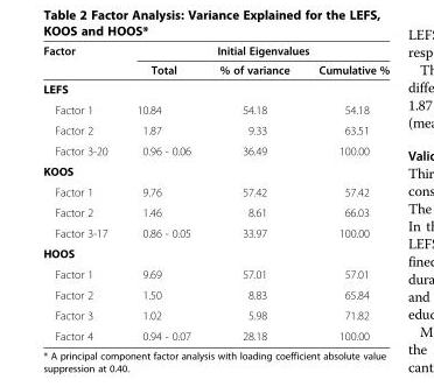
<table><thead><tr><td rowspan="2">Factor</td><td colspan="3">Initial Eigenvalues</td></tr><tr><td>Total</td><td>% of variance</td><td>Cumulative %</td></tr></thead><tbody><tr><td colspan="4">LEFS</td></tr><tr><td>Factor 1</td><td>10.84</td><td>54.18</td><td>54.18</td></tr><tr><td>Factor 2</td><td>1.87</td><td>9.33</td><td>63.51</td></tr><tr><td>Factor 3-20</td><td>0.96 - 0.06</td><td>36.49</td><td>100.00</td></tr><tr><td colspan="4">KOOS</td></tr><tr><td>Factor 1</td><td>9.76</td><td>57.42</td><td>57.42</td></tr><tr><td>Factor 2</td><td>1.46</td><td>8.61</td><td>66.03</td></tr><tr><td>Factor 3-17</td><td>0.86 - 0.05</td><td>33.97</td><td>100.00</td></tr><tr><td colspan="4">HOOS</td></tr><tr><td>Factor 1</td><td>9.69</td><td>57.01</td><td>57.01</td></tr><tr><td>Factor 2</td><td>1.50</td><td>8.83</td><td>65.84</td></tr><tr><td>Factor 3</td><td>1.02</td><td>5.98</td><td>71.82</td></tr><tr><td>Factor 4</td><td>0.94 - 0.07</td><td>28.18</td><td>100.00</td></tr></tbody></table>